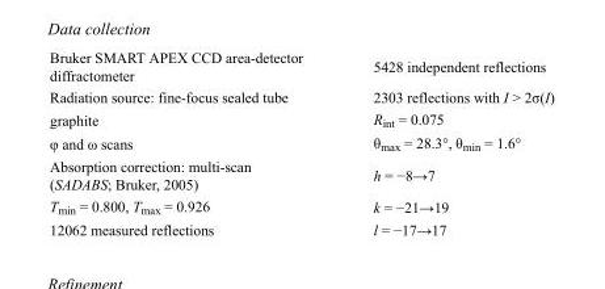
<table><tbody><tr><td>Bruker SMART APEX CCD area-detector diffractometer</td><td>5428 independent reflections</td></tr><tr><td>Radiation source: fine-focus sealed tube</td><td>2303 reflections with I &gt; 2σ(I)</td></tr><tr><td>graphite</td><td>R<sub>int</sub> = 0.075</td></tr><tr><td>φ and ω scans</td><td>θ<sub>max</sub> = 28.3°, θ<sub>min</sub> = 1.6°</td></tr><tr><td>Absorption correction: multi-scan (SADABS; Bruker, 2005)</td><td>h = −8→7</td></tr><tr><td>T<sub>min</sub> = 0.800, T<sub>max</sub> = 0.926</td><td>k = −21→19</td></tr><tr><td>12062 measured reflections</td><td>l = −17→17</td></tr></tbody></table>